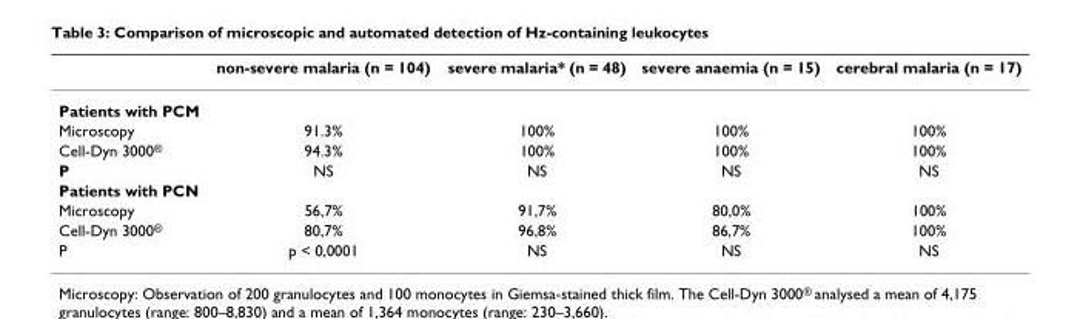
<table><thead><tr><td></td><td>non-severe malaria (n = 104)</td><td>severe malaria* (n = 48)</td><td>severe anaemia (n = 15)</td><td>cerebral malaria (n = 17)</td></tr></thead><tbody><tr><td colspan="5">Patients with PCM</td></tr><tr><td>Microscopy</td><td>91.3%</td><td>100%</td><td>100%</td><td>100%</td></tr><tr><td>Cell-Dyn 3000<sup>®</sup></td><td>94.3%</td><td>100%</td><td>100%</td><td>100%</td></tr><tr><td>P</td><td>NS</td><td>NS</td><td>NS</td><td>NS</td></tr><tr><td colspan="5">Patients with PCN</td></tr><tr><td>Microscopy</td><td>56,7%</td><td>91,7%</td><td>80,0%</td><td>100%</td></tr><tr><td>Cell-Dyn 3000<sup>®</sup></td><td>80,7%</td><td>96,8%</td><td>86,7%</td><td>100%</td></tr><tr><td>P</td><td>p &lt; 0,0001</td><td>NS</td><td>NS</td><td>NS</td></tr></tbody></table>